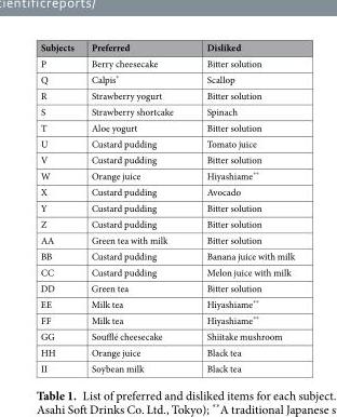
<table><thead><tr><td>Subjects</td><td>Preferred</td><td>Disliked</td></tr></thead><tbody><tr><td>P</td><td>Berry cheesecake</td><td>Bitter solution</td></tr><tr><td>Q</td><td>Calpis*</td><td>Scallop</td></tr><tr><td>R</td><td>Strawberry yogurt</td><td>Bitter solution</td></tr><tr><td>S</td><td>Strawberry shortcake</td><td>Spinach</td></tr><tr><td>T</td><td>Aloe yogurt</td><td>Bitter solution</td></tr><tr><td>U</td><td>Custard pudding</td><td>Tomato juice</td></tr><tr><td>V</td><td>Custard pudding</td><td>Bitter solution</td></tr><tr><td>W</td><td>Orange juice</td><td>Hiyashiame**</td></tr><tr><td>X</td><td>Custard pudding</td><td>Avocado</td></tr><tr><td>Y</td><td>Custard pudding</td><td>Bitter solution</td></tr><tr><td>Z</td><td>Custard pudding</td><td>Bitter solution</td></tr><tr><td>AA</td><td>Green tea with milk</td><td>Bitter solution</td></tr><tr><td>BB</td><td>Custard pudding</td><td>Banana juice with milk</td></tr><tr><td>CC</td><td>Custard pudding</td><td>Melon juice with milk</td></tr><tr><td>DD</td><td>Green tea</td><td>Bitter solution</td></tr><tr><td>EE</td><td>Milk tea</td><td>Hiyashiame**</td></tr><tr><td>FF</td><td>Milk tea</td><td>Hiyashiame**</td></tr><tr><td>GG</td><td>Soufflé cheesecake</td><td>Shiitake mushroom</td></tr><tr><td>HH</td><td>Orange juice</td><td>Black tea</td></tr><tr><td>II</td><td>Soybean milk</td><td>Black tea</td></tr></tbody></table>